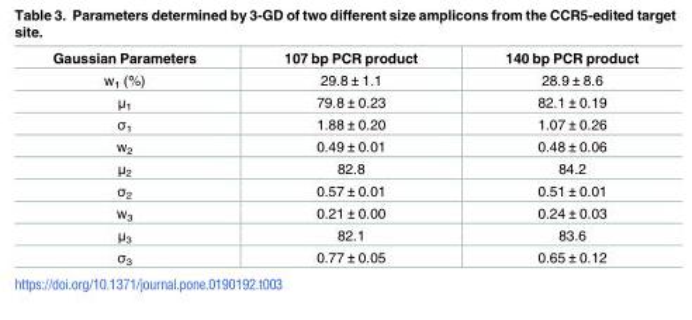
<table><thead><tr><td>Gaussian Parameters</td><td>107 bp PCR product</td><td>140 bp PCR product</td></tr></thead><tbody><tr><td>w<sub>1</sub> (%)</td><td>29.8 ± 1.1</td><td>28.9 ± 8.6</td></tr><tr><td>μ<sub>1</sub></td><td>79.8 ± 0.23</td><td>82.1 ± 0.19</td></tr><tr><td>σ<sub>1</sub></td><td>1.88 ± 0.20</td><td>1.07 ± 0.26</td></tr><tr><td>w<sub>2</sub></td><td>0.49 ± 0.01</td><td>0.48 ± 0.06</td></tr><tr><td>μ<sub>2</sub></td><td>82.8</td><td>84.2</td></tr><tr><td>σ<sub>2</sub></td><td>0.57 ± 0.01</td><td>0.51 ± 0.01</td></tr><tr><td>w<sub>3</sub></td><td>0.21 ± 0.00</td><td>0.24 ± 0.03</td></tr><tr><td>μ<sub>3</sub></td><td>82.1</td><td>83.6</td></tr><tr><td>σ<sub>3</sub></td><td>0.77 ± 0.05</td><td>0.65 ± 0.12</td></tr></tbody></table>